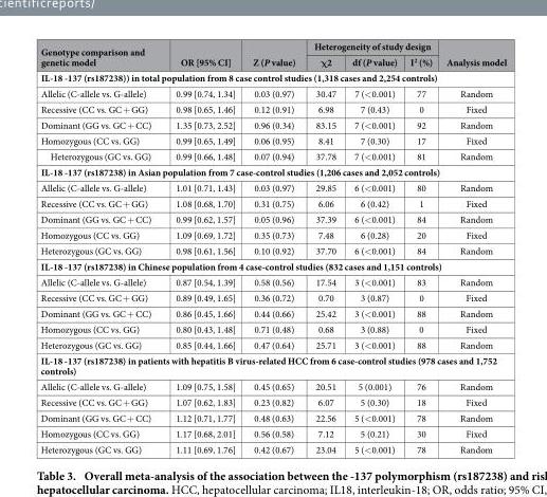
<table><thead><tr><td rowspan="2">Genotype comparison and genetic model</td><td rowspan="2">OR [95% CI]</td><td rowspan="2">Z (P value)</td><td colspan="3">Heterogeneity of study design</td><td rowspan="2">Analysis model</td></tr><tr><td>χ2</td><td>df (P value)</td><td>I<sup>2</sup> (%)</td></tr></thead><tbody><tr><td colspan="7">IL-18 -137 (rs187238)) in total population from 8 case control studies (1,318 cases and 2,254 controls)</td></tr><tr><td>Allelic (C-allele vs. G-allele)</td><td>0.99 [0.74, 1.34]</td><td>0.03 (0.97)</td><td>30.47</td><td>7 (&lt; 0.001)</td><td>77</td><td>Random</td></tr><tr><td>Recessive (CC vs. GC + GG)</td><td>0.98 [0.65, 1.46]</td><td>0.12 (0.91)</td><td>6.98</td><td>7 (0.43)</td><td>0</td><td>Fixed</td></tr><tr><td>Dominant (GG vs. GC + CC)</td><td>1.35 [0.73, 2.52]</td><td>0.96 (0.34)</td><td>83.15</td><td>7 (&lt; 0.001)</td><td>92</td><td>Random</td></tr><tr><td>Homozygous (CC vs. GG)</td><td>0.99 [0.65, 1.49]</td><td>0.06 (0.95)</td><td>8.41</td><td>7 (0.30)</td><td>17</td><td>Fixed</td></tr><tr><td>Heterozygous (GC vs. GG)</td><td>0.99 [0.66, 1.48]</td><td>0.07 (0.94)</td><td>37.78</td><td>7 (&lt; 0.001)</td><td>81</td><td>Random</td></tr><tr><td colspan="7">IL-18 -137 (rs187238) in Asian population from 7 case-control studies (1,206 cases and 2,052 controls)</td></tr><tr><td>Allelic (C-allele vs. G-allele)</td><td>1.01 [0.71, 1.43]</td><td>0.03 (0.97)</td><td>29.85</td><td>6 (&lt; 0.001)</td><td>80</td><td>Random</td></tr><tr><td>Recessive (CC vs. GC + GG)</td><td>1.08 [0.68, 1.70]</td><td>0.31 (0.75)</td><td>6.06</td><td>6 (0.42)</td><td>1</td><td>Fixed</td></tr><tr><td>Dominant (GG vs. GC + CC)</td><td>0.99 [0.62, 1.57]</td><td>0.05 (0.96)</td><td>37.39</td><td>6 (&lt; 0.001)</td><td>84</td><td>Random</td></tr><tr><td>Homozygous (CC vs. GG)</td><td>1.09 [0.69, 1.72]</td><td>0.35 (0.73)</td><td>7.48</td><td>6 (0.28)</td><td>20</td><td>Fixed</td></tr><tr><td>Heterozygous (GC vs. GG)</td><td>0.98 [0.61, 1.56]</td><td>0.10 (0.92)</td><td>37.70</td><td>6 (&lt; 0.001)</td><td>84</td><td>Random</td></tr><tr><td colspan="7">IL-18 -137 (rs187238) in Chinese population from 4 case-control studies (832 cases and 1,151 controls)</td></tr><tr><td>Allelic (C-allele vs. G-allele)</td><td>0.87 [0.54, 1.39]</td><td>0.58 (0.56)</td><td>17.54</td><td>3 (&lt; 0.001)</td><td>83</td><td>Random</td></tr><tr><td>Recessive (CC vs. GC + GG)</td><td>0.89 [0.49, 1.65]</td><td>0.36 (0.72)</td><td>0.70</td><td>3 (0.87)</td><td>0</td><td>Fixed</td></tr><tr><td>Dominant (GG vs. GC + CC)</td><td>0.86 [0.45, 1.66]</td><td>0.44 (0.66)</td><td>25.42</td><td>3 (&lt; 0.001)</td><td>88</td><td>Random</td></tr><tr><td>Homozygous (CC vs. GG)</td><td>0.80 [0.43, 1.48]</td><td>0.71 (0.48)</td><td>0.68</td><td>3 (0.88)</td><td>0</td><td>Fixed</td></tr><tr><td>Heterozygous (GC vs. GG)</td><td>0.85 [0.44, 1.66]</td><td>0.47 (0.64)</td><td>25.71</td><td>3 (&lt; 0.001)</td><td>88</td><td>Random</td></tr><tr><td colspan="7">IL-18 -137 (rs187238) in patients with hepatitis B virus-related HCC from 6 case-control studies (978 cases and 1,752 controls)</td></tr><tr><td>Allelic (C-allele vs. G-allele)</td><td>1.09 [0.75, 1.58]</td><td>0.45 (0.65)</td><td>20.51</td><td>5 (0.001)</td><td>76</td><td>Random</td></tr><tr><td>Recessive (CC vs. GC + GG)</td><td>1.07 [0.62, 1.83]</td><td>0.23 (0.82)</td><td>6.07</td><td>5 (0.30)</td><td>18</td><td>Fixed</td></tr><tr><td>Dominant (GG vs. GC + CC)</td><td>1.12 [0.71, 1.77]</td><td>0.48 (0.63)</td><td>22.56</td><td>5 (&lt; 0.001)</td><td>78</td><td>Random</td></tr><tr><td>Homozygous (CC vs. GG)</td><td>1.17 [0.68, 2.01]</td><td>0.56 (0.58)</td><td>7.12</td><td>5 (0.21)</td><td>30</td><td>Fixed</td></tr><tr><td>Heterozygous (GC vs. GG)</td><td>1.11 [0.69, 1.76]</td><td>0.42 (0.67)</td><td>23.04</td><td>5 (&lt; 0.001)</td><td>78</td><td>Random</td></tr></tbody></table>